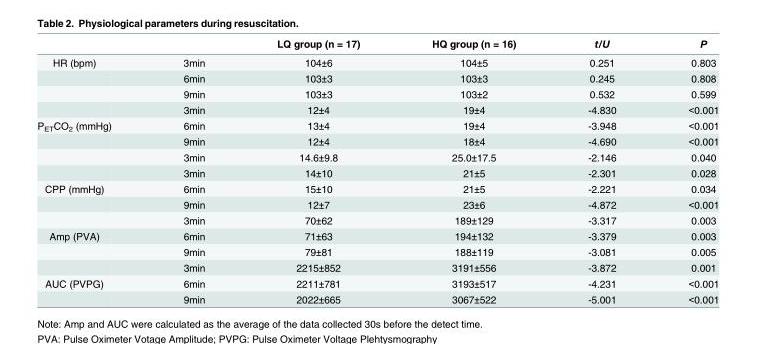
<table><thead><tr><td></td><td></td><td>LQ group (n = 17)</td><td>HQ group (n = 16)</td><td>t/U</td><td>P</td></tr></thead><tbody><tr><td rowspan="4">HR (bpm)</td><td>3min</td><td>104±6</td><td>104±5</td><td>0.251</td><td>0.803</td></tr><tr><td>6min</td><td>103±3</td><td>103±3</td><td>0.245</td><td>0.808</td></tr><tr><td>9min</td><td>103±3</td><td>103±2</td><td>0.532</td><td>0.599</td></tr><tr><td>3min</td><td>12±4</td><td>19±4</td><td>-4.830</td><td>&lt;0.001</td></tr><tr><td rowspan="4">P<sub>ET</sub>CO<sub>2</sub> (mmHg)</td><td>6min</td><td>13±4</td><td>19±4</td><td>-3.948</td><td>&lt;0.001</td></tr><tr><td>9min</td><td>12±4</td><td>18±4</td><td>-4.690</td><td>&lt;0.001</td></tr><tr><td>3min</td><td>14.6±9.8</td><td>25.0±17.5</td><td>-2.146</td><td>0.040</td></tr><tr><td>3min</td><td>14±10</td><td>21±5</td><td>-2.301</td><td>0.028</td></tr><tr><td rowspan="3">CPP (mmHg)</td><td>6min</td><td>15±10</td><td>21±5</td><td>-2.221</td><td>0.034</td></tr><tr><td>9min</td><td>12±7</td><td>23±6</td><td>-4.872</td><td>&lt;0.001</td></tr><tr><td>3min</td><td>70±62</td><td>189±129</td><td>-3.317</td><td>0.003</td></tr><tr><td rowspan="3">Amp (PVA)</td><td>6min</td><td>71±63</td><td>194±132</td><td>-3.379</td><td>0.003</td></tr><tr><td>9min</td><td>79±81</td><td>188±119</td><td>-3.081</td><td>0.005</td></tr><tr><td>3min</td><td>2215±852</td><td>3191±556</td><td>-3.872</td><td>0.001</td></tr><tr><td rowspan="2">AUC (PVPG)</td><td>6min</td><td>2211±781</td><td>3193±517</td><td>-4.231</td><td>&lt;0.001</td></tr><tr><td>9min</td><td>2022±665</td><td>3067±522</td><td>-5.001</td><td>&lt;0.001</td></tr></tbody></table>